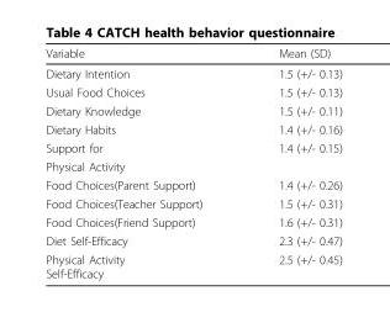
<table><thead><tr><td>Variable</td><td>Mean (SD)</td></tr></thead><tbody><tr><td>Dietary Intention</td><td>1.5 (+/- 0.13)</td></tr><tr><td>Usual Food Choices</td><td>1.5 (+/- 0.13)</td></tr><tr><td>Dietary Knowledge</td><td>1.5 (+/- 0.11)</td></tr><tr><td>Dietary Habits</td><td>1.4 (+/- 0.16)</td></tr><tr><td>Support for</td><td>1.4 (+/- 0.15)</td></tr><tr><td colspan="2">Physical Activity</td></tr><tr><td>Food Choices(Parent Support)</td><td>1.4 (+/- 0.26)</td></tr><tr><td>Food Choices(Teacher Support)</td><td>1.5 (+/- 0.31)</td></tr><tr><td>Food Choices(Friend Support)</td><td>1.6 (+/- 0.31)</td></tr><tr><td>Diet Self-Efficacy</td><td>2.3 (+/- 0.47)</td></tr><tr><td>Physical Activity Self-Efficacy</td><td>2.5 (+/- 0.45)</td></tr></tbody></table>